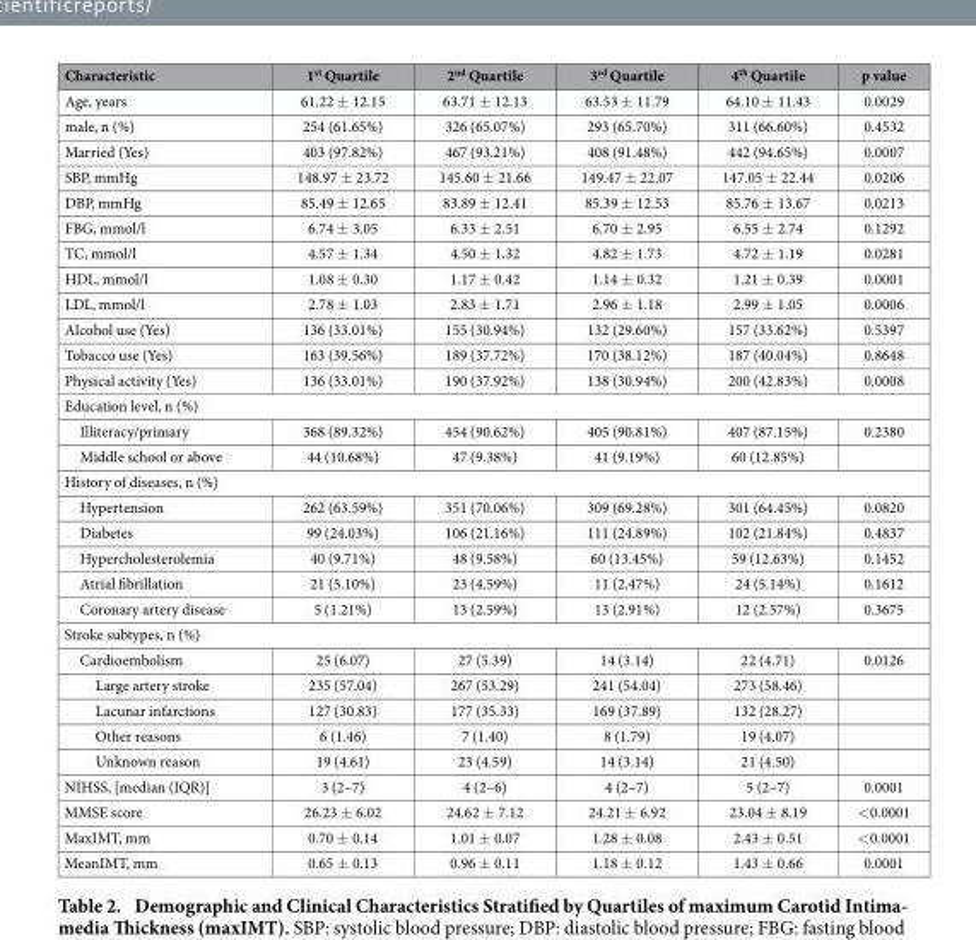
<table><thead><tr><td>Characteristic</td><td>1<sup>st</sup> Quartile</td><td>2<sup>nd</sup> Quartile</td><td>3<sup>rd</sup> Quartile</td><td>4<sup>th</sup> Quartile</td><td>p value</td></tr></thead><tbody><tr><td>Age, years</td><td>61.22 ± 12.15</td><td>63.71 ± 12.13</td><td>63.53 ± 11.79</td><td>64.10 ± 11.43</td><td>0.0029</td></tr><tr><td>male, n (%)</td><td>254 (61.65%)</td><td>326 (65.07%)</td><td>293 (65.70%)</td><td>311 (66.60%)</td><td>0.4532</td></tr><tr><td>Married (Yes)</td><td>403 (97.82%)</td><td>467 (93.21%)</td><td>408 (91.48%)</td><td>442 (94.65%)</td><td>0.0007</td></tr><tr><td>SBP, mmHg</td><td>148.97 ± 23.72</td><td>145.60 ± 21.66</td><td>149.47 ± 22.07</td><td>147.05 ± 22.44</td><td>0.0206</td></tr><tr><td>DBP, mmHg</td><td>85.49 ± 12.65</td><td>83.89 ± 12.41</td><td>85.39 ± 12.53</td><td>85.76 ± 13.67</td><td>0.0213</td></tr><tr><td>FBG, mmol/l</td><td>6.74 ± 3.05</td><td>6.33 ± 2.51</td><td>6.70 ± 2.95</td><td>6.55 ± 2.74</td><td>0.1292</td></tr><tr><td>TC, mmol/l</td><td>4.57 ± 1.34</td><td>4.50 ± 1.32</td><td>4.82 ± 1.73</td><td>4.72 ± 1.19</td><td>0.0281</td></tr><tr><td>HDL, mmol/l</td><td>1.08 ± 0.30</td><td>1.17 ± 0.42</td><td>1.14 ± 0.32</td><td>1.21 ± 0.39</td><td>0.0001</td></tr><tr><td>LDL, mmol/l</td><td>2.78 ± 1.03</td><td>2.83 ± 1.71</td><td>2.96 ± 1.18</td><td>2.99 ± 1.05</td><td>0.0006</td></tr><tr><td>Alcohol use (Yes)</td><td>136 (33.01%)</td><td>155 (30.94%)</td><td>132 (29.60%)</td><td>157 (33.62%)</td><td>0.5397</td></tr><tr><td>Tobacco use (Yes)</td><td>163 (39.56%)</td><td>189 (37.72%)</td><td>170 (38.12%)</td><td>187 (40.04%)</td><td>0.8648</td></tr><tr><td>Physical activity (Yes)</td><td>136 (33.01%)</td><td>190 (37.92%)</td><td>138 (30.94%)</td><td>200 (42.83%)</td><td>0.0008</td></tr><tr><td colspan="6">Education level, n (%)</td></tr><tr><td>Illiteracy/primary</td><td>368 (89.32%)</td><td>454 (90.62%)</td><td>405 (90.81%)</td><td>407 (87.15%)</td><td>0.2380</td></tr><tr><td>Middle school or above</td><td>44 (10.68%)</td><td>47 (9.38%)</td><td>41 (9.19%)</td><td>60 (12.85%)</td><td></td></tr><tr><td colspan="6">History of diseases, n (%)</td></tr><tr><td>Hypertension</td><td>262 (63.59%)</td><td>351 (70.06%)</td><td>309 (69.28%)</td><td>301 (64.45%)</td><td>0.0820</td></tr><tr><td>Diabetes</td><td>99 (24.03%)</td><td>106 (21.16%)</td><td>111 (24.89%)</td><td>102 (21.84%)</td><td>0.4837</td></tr><tr><td>Hypercholesterolemia</td><td>40 (9.71%)</td><td>48 (9.58%)</td><td>60 (13.45%)</td><td>59 (12.63%)</td><td>0.1452</td></tr><tr><td>Atrial fibrillation</td><td>21 (5.10%)</td><td>23 (4.59%)</td><td>11 (2.47%)</td><td>24 (5.14%)</td><td>0.1612</td></tr><tr><td>Coronary artery disease</td><td>5 (1.21%)</td><td>13 (2.59%)</td><td>13 (2.91%)</td><td>12 (2.57%)</td><td>0.3675</td></tr><tr><td colspan="6">Stroke subtypes, n (%)</td></tr><tr><td>Cardioembolism</td><td>25 (6.07)</td><td>27 (5.39)</td><td>14 (3.14)</td><td>22 (4.71)</td><td>0.0126</td></tr><tr><td>Large artery stroke</td><td>235 (57.04)</td><td>267 (53.29)</td><td>241 (54.04)</td><td>273 (58.46)</td><td></td></tr><tr><td>Lacunar infarctions</td><td>127 (30.83)</td><td>177 (35.33)</td><td>169 (37.89)</td><td>132 (28.27)</td><td></td></tr><tr><td>Other reasons</td><td>6 (1.46)</td><td>7 (1.40)</td><td>8 (1.79)</td><td>19 (4.07)</td><td></td></tr><tr><td>Unknown reason</td><td>19 (4.61)</td><td>23 (4.59)</td><td>14 (3.14)</td><td>21 (4.50)</td><td></td></tr><tr><td>NIHSS, [median (IQR)]</td><td>3 (2–7)</td><td>4 (2–6)</td><td>4 (2–7)</td><td>5 (2–7)</td><td>0.0001</td></tr><tr><td>MMSE score</td><td>26.23 ± 6.02</td><td>24.62 ± 7.12</td><td>24.21 ± 6.92</td><td>23.04 ± 8.19</td><td>&lt; 0.0001</td></tr><tr><td>MaxIMT, mm</td><td>0.70 ± 0.14</td><td>1.01 ± 0.07</td><td>1.28 ± 0.08</td><td>2.43 ± 0.51</td><td>&lt; 0.0001</td></tr><tr><td>MeanIMT, mm</td><td>0.65 ± 0.13</td><td>0.96 ± 0.11</td><td>1.18 ± 0.12</td><td>1.43 ± 0.66</td><td>0.0001</td></tr></tbody></table>